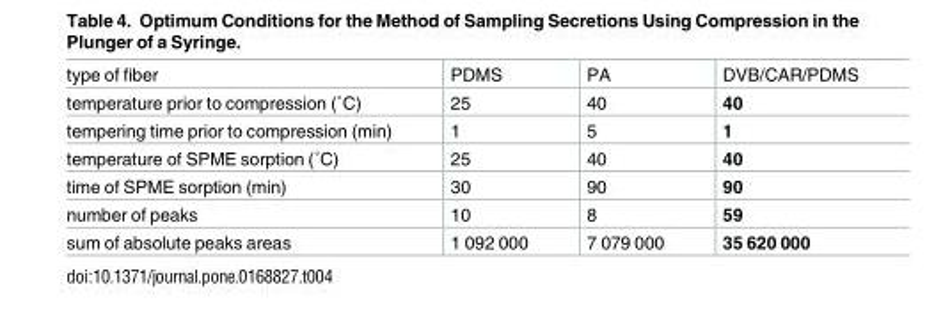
<table><tbody><tr><td>type of fiber</td><td>PDMS</td><td>PA</td><td>DVB/CAR/PDMS</td></tr><tr><td>temperature prior to compression (˚C)</td><td>25</td><td>40</td><td>40</td></tr><tr><td>tempering time prior to compression (min)</td><td>1</td><td>5</td><td>1</td></tr><tr><td>temperature of SPME sorption (˚C)</td><td>25</td><td>40</td><td>40</td></tr><tr><td>time of SPME sorption (min)</td><td>30</td><td>90</td><td>90</td></tr><tr><td>number of peaks</td><td>10</td><td>8</td><td>59</td></tr><tr><td>sum of absolute peaks areas</td><td>1 092 000</td><td>7 079 000</td><td>35 620 000</td></tr></tbody></table>